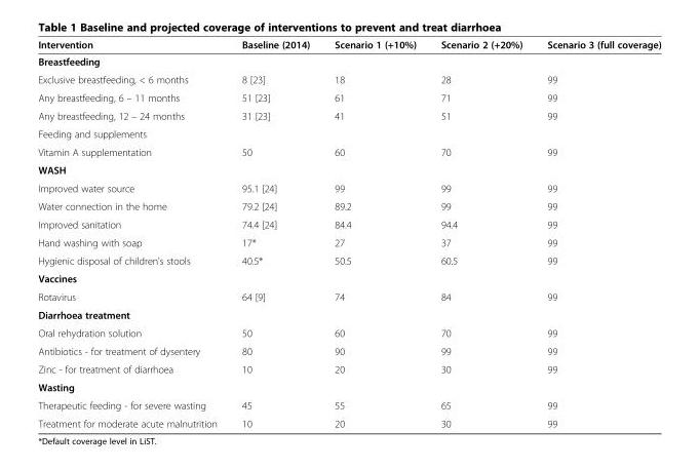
<table><thead><tr><td>Intervention</td><td>Baseline (2014)</td><td>Scenario 1 (+10%)</td><td>Scenario 2 (+20%)</td><td>Scenario 3 (full coverage)</td></tr></thead><tbody><tr><td colspan="5">Breastfeeding</td></tr><tr><td>Exclusive breastfeeding, &lt; 6 months</td><td>8 [23]</td><td>18</td><td>28</td><td>99</td></tr><tr><td>Any breastfeeding, 6 – 11 months</td><td>51 [23]</td><td>61</td><td>71</td><td>99</td></tr><tr><td>Any breastfeeding, 12 – 24 months</td><td>31 [23]</td><td>41</td><td>51</td><td>99</td></tr><tr><td colspan="5">Feeding and supplements</td></tr><tr><td>Vitamin A supplementation</td><td>50</td><td>60</td><td>70</td><td>99</td></tr><tr><td colspan="5">WASH</td></tr><tr><td>Improved water source</td><td>95.1 [24]</td><td>99</td><td>99</td><td>99</td></tr><tr><td>Water connection in the home</td><td>79.2 [24]</td><td>89.2</td><td>99</td><td>99</td></tr><tr><td>Improved sanitation</td><td>74.4 [24]</td><td>84.4</td><td>94.4</td><td>99</td></tr><tr><td>Hand washing with soap</td><td>17*</td><td>27</td><td>37</td><td>99</td></tr><tr><td>Hygienic disposal of children&#x27;s stools</td><td>40.5*</td><td>50.5</td><td>60.5</td><td>99</td></tr><tr><td colspan="5">Vaccines</td></tr><tr><td>Rotavirus</td><td>64 [9]</td><td>74</td><td>84</td><td>99</td></tr><tr><td colspan="5">Diarrhoea treatment</td></tr><tr><td>Oral rehydration solution</td><td>50</td><td>60</td><td>70</td><td>99</td></tr><tr><td>Antibiotics - for treatment of dysentery</td><td>80</td><td>90</td><td>99</td><td>99</td></tr><tr><td>Zinc - for treatment of diarrhoea</td><td>10</td><td>20</td><td>30</td><td>99</td></tr><tr><td colspan="5">Wasting</td></tr><tr><td>Therapeutic feeding - for severe wasting</td><td>45</td><td>55</td><td>65</td><td>99</td></tr><tr><td>Treatment for moderate acute malnutrition</td><td>10</td><td>20</td><td>30</td><td>99</td></tr></tbody></table>